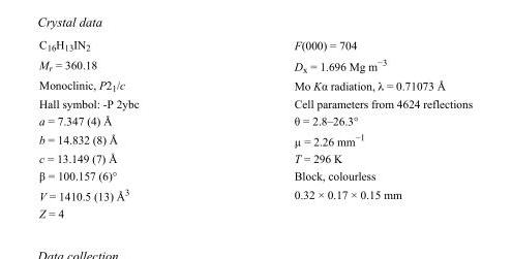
<table><tbody><tr><td>C<sub>16</sub>H<sub>13</sub>IN<sub>2</sub></td><td>F(000) = 704</td></tr><tr><td>M<sub>r</sub> = 360.18</td><td>D<sub>x</sub> = 1.696 Mg m<sup>−3</sup></td></tr><tr><td>Monoclinic, P2<sub>1</sub>/c</td><td>Mo Kα radiation, λ = 0.71073 Å</td></tr><tr><td>Hall symbol: -P 2ybc</td><td>Cell parameters from 4624 reflections</td></tr><tr><td>a = 7.347 (4) Å</td><td>θ = 2.8–26.3°</td></tr><tr><td>b = 14.832 (8) Å</td><td>µ = 2.26 mm<sup>−1</sup></td></tr><tr><td>c = 13.149 (7) Å</td><td>T = 296 K</td></tr><tr><td>β = 100.157 (6)°</td><td>Block, colourless</td></tr><tr><td>V = 1410.5 (13) Å<sup>3</sup></td><td>0.32 × 0.17 × 0.15 mm</td></tr><tr><td>Z = 4</td><td></td></tr></tbody></table>